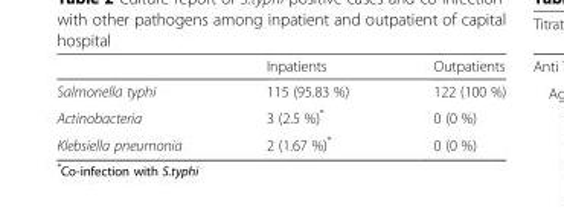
<table><thead><tr><td></td><td>Inpatients</td><td>Outpatients</td></tr></thead><tbody><tr><td>Salmonella typhi</td><td>115 (95.83 %)</td><td>122 (100 %)</td></tr><tr><td>Actinobacteria</td><td>3 (2.5 %)*</td><td>0 (0 %)</td></tr><tr><td>Klebsiella pneumonia</td><td>2 (1.67 %)*</td><td>0 (0 %)</td></tr></tbody></table>